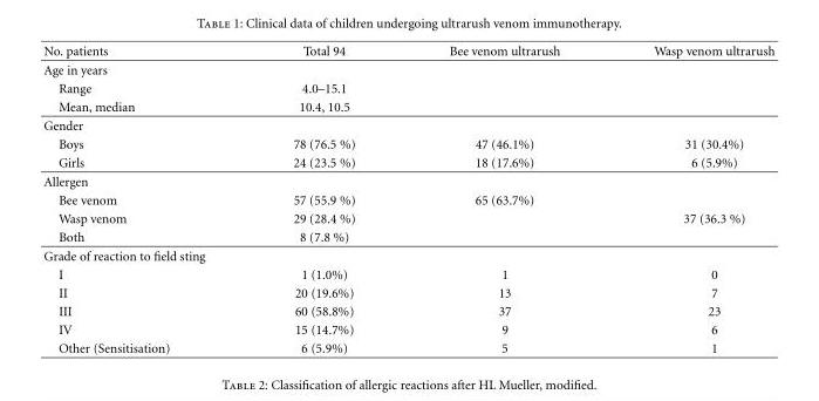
<table><thead><tr><td>No. patients</td><td>Total 94</td><td>Bee venom ultrarush</td><td>Wasp venom ultrarush</td></tr></thead><tbody><tr><td colspan="4">Age in years</td></tr><tr><td>Range</td><td>4.0–15.1</td><td></td><td></td></tr><tr><td>Mean, median</td><td>10.4, 10.5</td><td></td><td></td></tr><tr><td colspan="4">Gender</td></tr><tr><td>Boys</td><td>78 (76.5 %)</td><td>47 (46.1%)</td><td>31 (30.4%)</td></tr><tr><td>Girls</td><td>24 (23.5 %)</td><td>18 (17.6%)</td><td>6 (5.9%)</td></tr><tr><td colspan="4">Allergen</td></tr><tr><td>Bee venom</td><td>57 (55.9 %)</td><td>65 (63.7%)</td><td></td></tr><tr><td>Wasp venom</td><td>29 (28.4 %)</td><td></td><td>37 (36.3 %)</td></tr><tr><td>Both</td><td>8 (7.8 %)</td><td></td><td></td></tr><tr><td colspan="4">Grade of reaction to field sting</td></tr><tr><td>I</td><td>1 (1.0%)</td><td>1</td><td>0</td></tr><tr><td>II</td><td>20 (19.6%)</td><td>13</td><td>7</td></tr><tr><td>III</td><td>60 (58.8%)</td><td>37</td><td>23</td></tr><tr><td>IV</td><td>15 (14.7%)</td><td>9</td><td>6</td></tr><tr><td>Other (Sensitisation)</td><td>6 (5.9%)</td><td>5</td><td>1</td></tr></tbody></table>